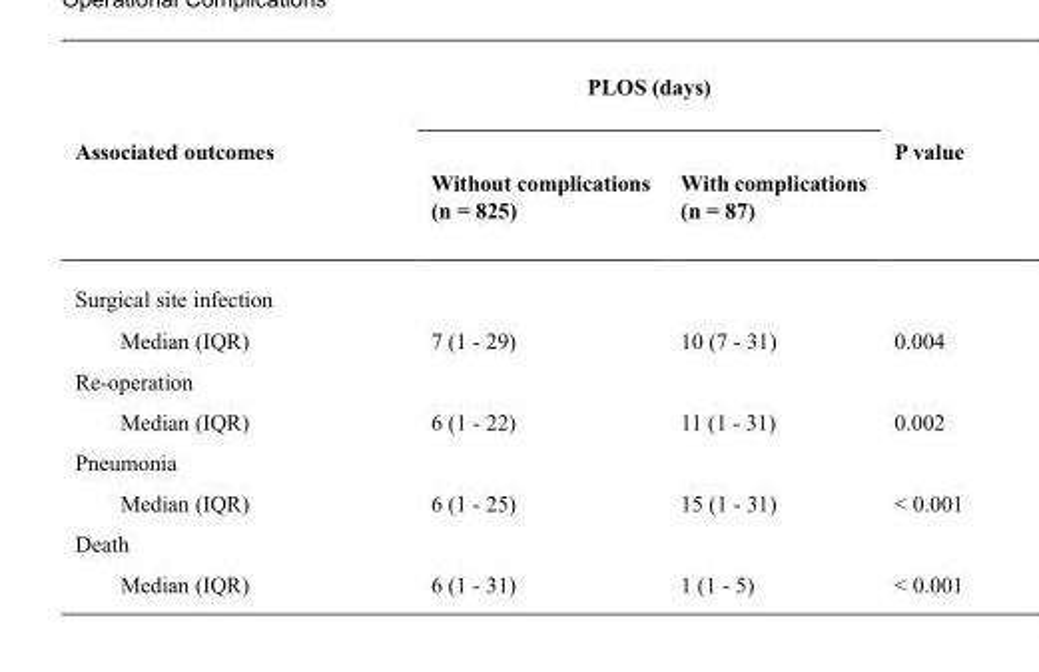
<table><thead><tr><td rowspan="2">Associated outcomes</td><td colspan="2">PLOS (days)</td><td rowspan="2">P value</td></tr><tr><td>Without complications (n = 825)</td><td>With complications (n = 87)</td></tr></thead><tbody><tr><td colspan="4">Surgical site infection</td></tr><tr><td>Median (IQR)</td><td>7 (1 - 29)</td><td>10 (7 - 31)</td><td>0.004</td></tr><tr><td colspan="4">Re-operation</td></tr><tr><td>Median (IQR)</td><td>6 (1 - 22)</td><td>11 (1 - 31)</td><td>0.002</td></tr><tr><td colspan="4">Pneumonia</td></tr><tr><td>Median (IQR)</td><td>6 (1 - 25)</td><td>15 (1 - 31)</td><td>&lt; 0.001</td></tr><tr><td colspan="4">Death</td></tr><tr><td>Median (IQR)</td><td>6 (1 - 31)</td><td>1 (1 - 5)</td><td>&lt; 0.001</td></tr></tbody></table>